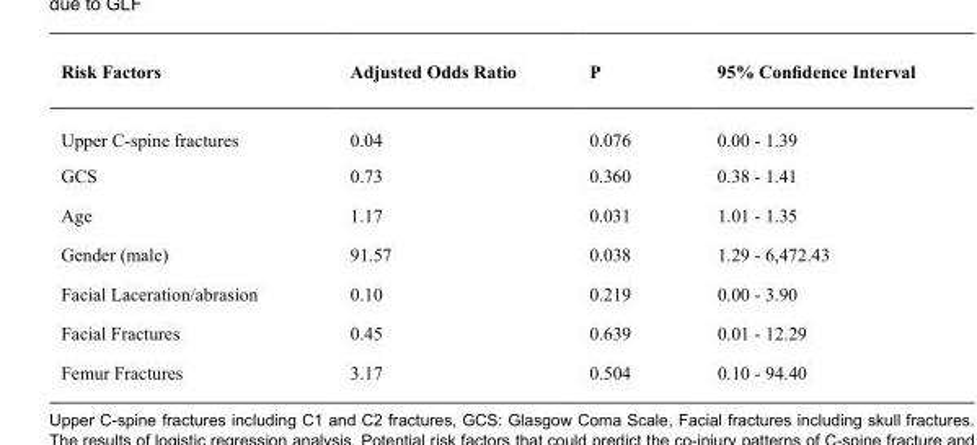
<table><thead><tr><td>Risk Factors</td><td>Adjusted Odds Ratio</td><td>P</td><td>95% Confidence Interval</td></tr></thead><tbody><tr><td>Upper C-spine fractures</td><td>0.04</td><td>0.076</td><td>0.00 - 1.39</td></tr><tr><td>GCS</td><td>0.73</td><td>0.360</td><td>0.38 - 1.41</td></tr><tr><td>Age</td><td>1.17</td><td>0.031</td><td>1.01 - 1.35</td></tr><tr><td>Gender (male)</td><td>91.57</td><td>0.038</td><td>1.29 - 6,472.43</td></tr><tr><td>Facial Laceration/abrasion</td><td>0.10</td><td>0.219</td><td>0.00 - 3.90</td></tr><tr><td>Facial Fractures</td><td>0.45</td><td>0.639</td><td>0.01 - 12.29</td></tr><tr><td>Femur Fractures</td><td>3.17</td><td>0.504</td><td>0.10 - 94.40</td></tr></tbody></table>